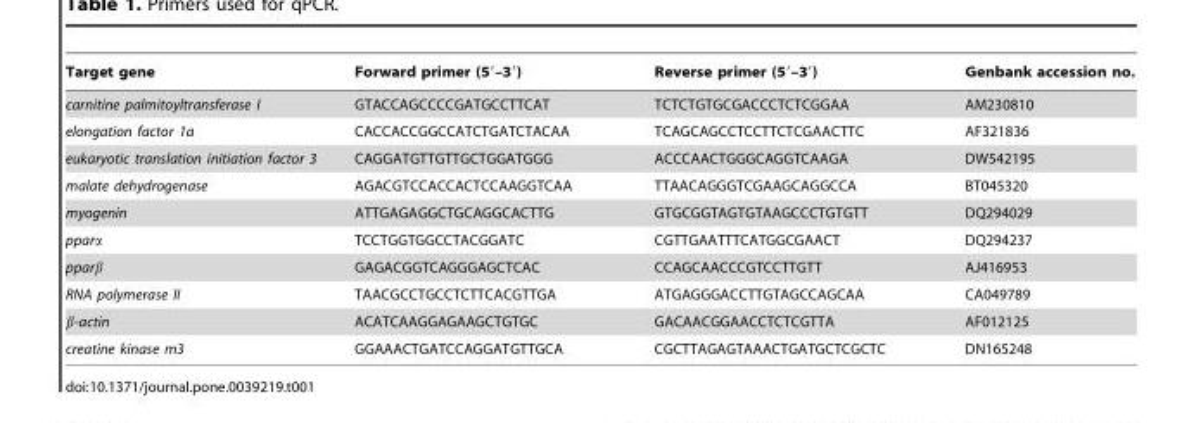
<table><thead><tr><td>Target gene</td><td>Forward primer (5′–3′)</td><td>Reverse primer (5′–3′)</td><td>Genbank accession no.</td></tr></thead><tbody><tr><td>carnitine palmitoyltransferase I</td><td>GTACCAGCCCCGATGCCTTCAT</td><td>TCTCTGTGCGACCCTCTCGGAA</td><td>AM230810</td></tr><tr><td>elongation factor 1a</td><td>CACCACCGGCCATCTGATCTACAA</td><td>TCAGCAGCCTCCTTCTCGAACTTC</td><td>AF321836</td></tr><tr><td>eukaryotic translation initiation factor 3</td><td>CAGGATGTTGTTGCTGGATGGG</td><td>ACCCAACTGGGCAGGTCAAGA</td><td>DW542195</td></tr><tr><td>malate dehydrogenase</td><td>AGACGTCCACCACTCCAAGGTCAA</td><td>TTAACAGGGTCGAAGCAGGCCA</td><td>BT045320</td></tr><tr><td>myogenin</td><td>ATTGAGAGGCTGCAGGCACTTG</td><td>GTGCGGTAGTGTAAGCCCTGTGTT</td><td>DQ294029</td></tr><tr><td>pparα</td><td>TCCTGGTGGCCTACGGATC</td><td>CGTTGAATTTCATGGCGAACT</td><td>DQ294237</td></tr><tr><td>pparβ</td><td>GAGACGGTCAGGGAGCTCAC</td><td>CCAGCAACCCGTCCTTGTT</td><td>AJ416953</td></tr><tr><td>RNA polymerase II</td><td>TAACGCCTGCCTCTTCACGTTGA</td><td>ATGAGGGACCTTGTAGCCAGCAA</td><td>CA049789</td></tr><tr><td>β-actin</td><td>ACATCAAGGAGAAGCTGTGC</td><td>GACAACGGAACCTCTCGTTA</td><td>AF012125</td></tr><tr><td>creatine kinase m3</td><td>GGAAACTGATCCAGGATGTTGCA</td><td>CGCTTAGAGTAAACTGATGCTCGCTC</td><td>DN165248</td></tr></tbody></table>